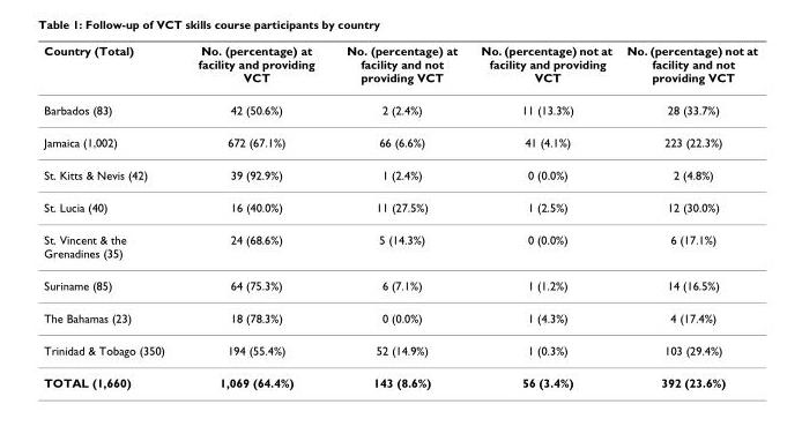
<table><thead><tr><td>Country (Total)</td><td>No. (percentage) at facility and providing VCT</td><td>No. (percentage) at facility and not providing VCT</td><td>No. (percentage) not at facility and providing VCT</td><td>No. (percentage) not at facility and not providing VCT</td></tr></thead><tbody><tr><td>Barbados (83)</td><td>42 (50.6%)</td><td>2 (2.4%)</td><td>11 (13.3%)</td><td>28 (33.7%)</td></tr><tr><td>Jamaica (1,002)</td><td>672 (67.1%)</td><td>66 (6.6%)</td><td>41 (4.1%)</td><td>223 (22.3%)</td></tr><tr><td>St. Kitts &amp; Nevis (42)</td><td>39 (92.9%)</td><td>1 (2.4%)</td><td>0 (0.0%)</td><td>2 (4.8%)</td></tr><tr><td>St. Lucia (40)</td><td>16 (40.0%)</td><td>11 (27.5%)</td><td>1 (2.5%)</td><td>12 (30.0%)</td></tr><tr><td>St. Vincent &amp; the Grenadines (35)</td><td>24 (68.6%)</td><td>5 (14.3%)</td><td>0 (0.0%)</td><td>6 (17.1%)</td></tr><tr><td>Suriname (85)</td><td>64 (75.3%)</td><td>6 (7.1%)</td><td>1 (1.2%)</td><td>14 (16.5%)</td></tr><tr><td>The Bahamas (23)</td><td>18 (78.3%)</td><td>0 (0.0%)</td><td>1 (4.3%)</td><td>4 (17.4%)</td></tr><tr><td>Trinidad &amp; Tobago (350)</td><td>194 (55.4%)</td><td>52 (14.9%)</td><td>1 (0.3%)</td><td>103 (29.4%)</td></tr><tr><td>TOTAL (1,660)</td><td>1,069 (64.4%)</td><td>143 (8.6%)</td><td>56 (3.4%)</td><td>392 (23.6%)</td></tr></tbody></table>